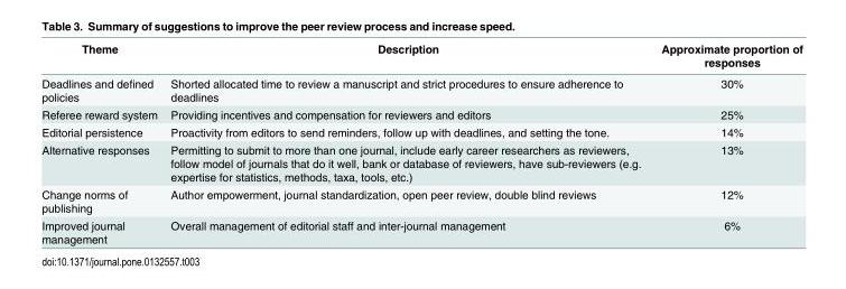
<table><thead><tr><td>Theme</td><td>Description</td><td>Approximate proportion of responses</td></tr></thead><tbody><tr><td>Deadlines and defined policies</td><td>Shorted allocated time to review a manuscript and strict procedures to ensure adherence to deadlines</td><td>30%</td></tr><tr><td>Referee reward system</td><td>Providing incentives and compensation for reviewers and editors</td><td>25%</td></tr><tr><td>Editorial persistence</td><td>Proactivity from editors to send reminders, follow up with deadlines, and setting the tone.</td><td>14%</td></tr><tr><td>Alternative responses</td><td>Permitting to submit to more than one journal, include early career researchers as reviewers, follow model of journals that do it well, bank or database of reviewers, have sub-reviewers (e.g. expertise for statistics, methods, taxa, tools, etc.)</td><td>13%</td></tr><tr><td>Change norms of publishing</td><td>Author empowerment, journal standardization, open peer review, double blind reviews</td><td>12%</td></tr><tr><td>Improved journal management</td><td>Overall management of editorial staff and inter-journal management</td><td>6%</td></tr></tbody></table>